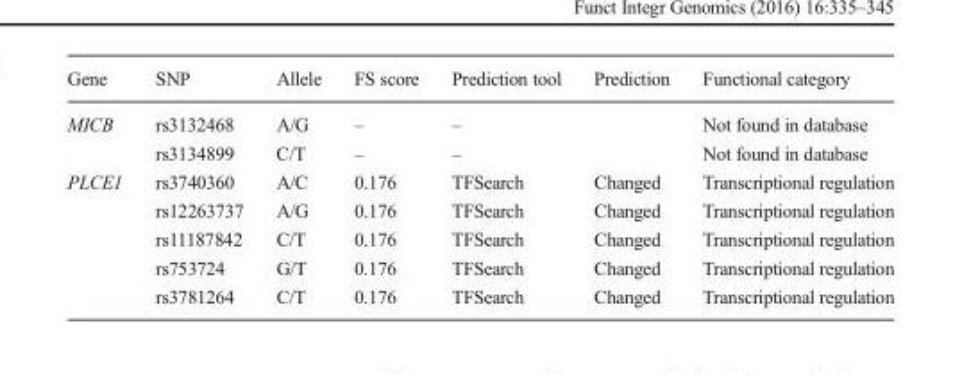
<table><thead><tr><td>Gene</td><td>SNP</td><td>Allele</td><td>FS score</td><td>Prediction tool</td><td>Prediction</td><td>Functional category</td></tr></thead><tbody><tr><td rowspan="2">MICB</td><td>rs3132468</td><td>A/G</td><td>–</td><td>–</td><td></td><td>Not found in database</td></tr><tr><td>rs3134899</td><td>C/T</td><td>–</td><td>–</td><td></td><td>Not found in database</td></tr><tr><td rowspan="5">PLCE1</td><td>rs3740360</td><td>A/C</td><td>0.176</td><td>TFSearch</td><td>Changed</td><td>Transcriptional regulation</td></tr><tr><td>rs12263737</td><td>A/G</td><td>0.176</td><td>TFSearch</td><td>Changed</td><td>Transcriptional regulation</td></tr><tr><td>rs11187842</td><td>C/T</td><td>0.176</td><td>TFSearch</td><td>Changed</td><td>Transcriptional regulation</td></tr><tr><td>rs753724</td><td>G/T</td><td>0.176</td><td>TFSearch</td><td>Changed</td><td>Transcriptional regulation</td></tr><tr><td>rs3781264</td><td>C/T</td><td>0.176</td><td>TFSearch</td><td>Changed</td><td>Transcriptional regulation</td></tr></tbody></table>